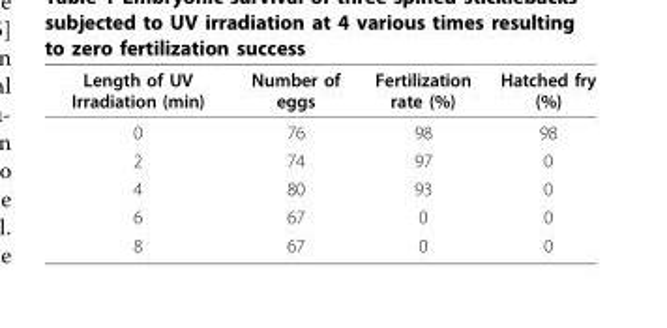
<table><thead><tr><td>Length of UV Irradiation (min)</td><td>Number of eggs</td><td>Fertilization rate (%)</td><td>Hatched fry (%)</td></tr></thead><tbody><tr><td>0</td><td>76</td><td>98</td><td>98</td></tr><tr><td>2</td><td>74</td><td>97</td><td>0</td></tr><tr><td>4</td><td>80</td><td>93</td><td>0</td></tr><tr><td>6</td><td>67</td><td>0</td><td>0</td></tr><tr><td>8</td><td>67</td><td>0</td><td>0</td></tr></tbody></table>